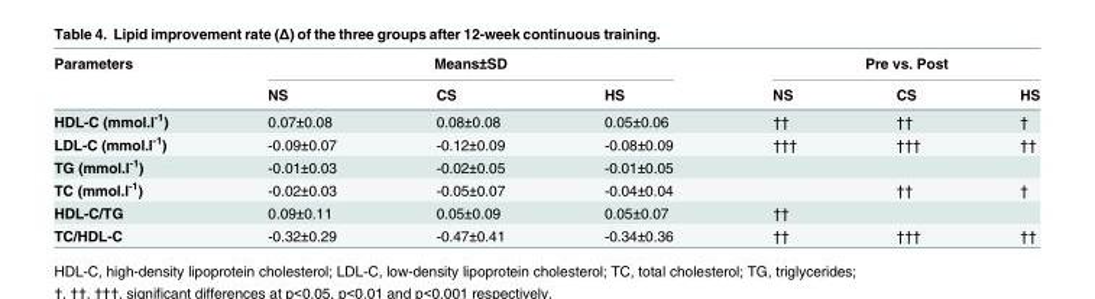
<table><thead><tr><td rowspan="2">Parameters</td><td colspan="3">Means±SD</td><td colspan="3">Pre vs. Post</td></tr><tr><td>NS</td><td>CS</td><td>HS</td><td>NS</td><td>CS</td><td>HS</td></tr></thead><tbody><tr><td>HDL-C (mmol.l<sup>-1</sup>)</td><td>0.07±0.08</td><td>0.08±0.08</td><td>0.05±0.06</td><td>††</td><td>††</td><td>†</td></tr><tr><td>LDL-C (mmol.l<sup>-1</sup>)</td><td>-0.09±0.07</td><td>-0.12±0.09</td><td>-0.08±0.09</td><td>†††</td><td>†††</td><td>††</td></tr><tr><td>TG (mmol.l<sup>-1</sup>)</td><td>-0.01±0.03</td><td>-0.02±0.05</td><td>-0.01±0.05</td><td></td><td></td><td></td></tr><tr><td>TC (mmol.l<sup>-1</sup>)</td><td>-0.02±0.03</td><td>-0.05±0.07</td><td>-0.04±0.04</td><td></td><td>††</td><td>†</td></tr><tr><td>HDL-C/TG</td><td>0.09±0.11</td><td>0.05±0.09</td><td>0.05±0.07</td><td>††</td><td></td><td></td></tr><tr><td>TC/HDL-C</td><td>-0.32±0.29</td><td>-0.47±0.41</td><td>-0.34±0.36</td><td>††</td><td>†††</td><td>††</td></tr></tbody></table>